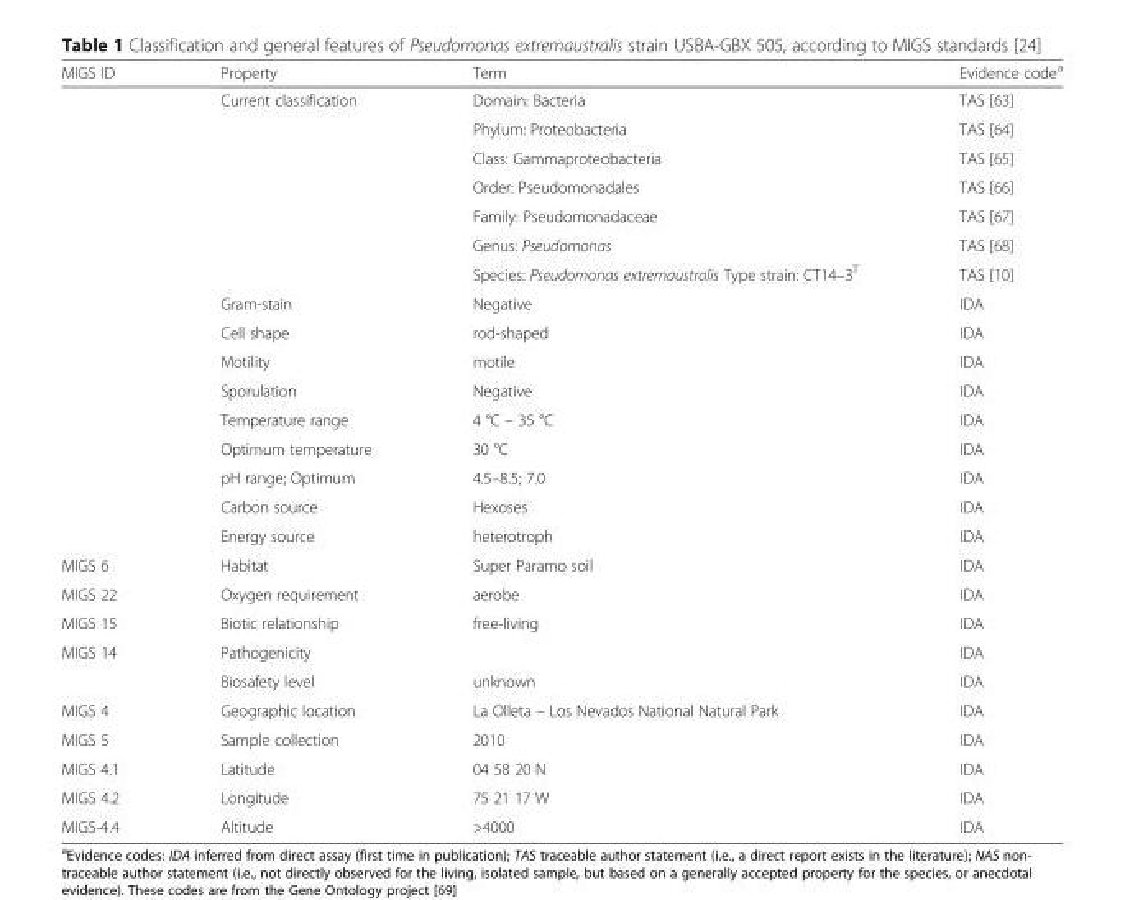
<table><thead><tr><td>MIGS ID</td><td>Property</td><td>Term</td><td>Evidence code<sup>a</sup></td></tr></thead><tbody><tr><td></td><td>Current classification</td><td>Domain: Bacteria</td><td>TAS [63]</td></tr><tr><td></td><td></td><td>Phylum: Proteobacteria</td><td>TAS [64]</td></tr><tr><td></td><td></td><td>Class: Gammaproteobacteria</td><td>TAS [65]</td></tr><tr><td></td><td></td><td>Order: Pseudomonadales</td><td>TAS [66]</td></tr><tr><td></td><td></td><td>Family: Pseudomonadaceae</td><td>TAS [67]</td></tr><tr><td></td><td></td><td>Genus: Pseudomonas</td><td>TAS [68]</td></tr><tr><td></td><td></td><td>Species: Pseudomonas extremaustralis Type strain: CT14–3<sup>T</sup></td><td>TAS [10]</td></tr><tr><td></td><td>Gram-stain</td><td>Negative</td><td>IDA</td></tr><tr><td></td><td>Cell shape</td><td>rod-shaped</td><td>IDA</td></tr><tr><td></td><td>Motility</td><td>motile</td><td>IDA</td></tr><tr><td></td><td>Sporulation</td><td>Negative</td><td>IDA</td></tr><tr><td></td><td>Temperature range</td><td>4 °C – 35 °C</td><td>IDA</td></tr><tr><td></td><td>Optimum temperature</td><td>30 °C</td><td>IDA</td></tr><tr><td></td><td>pH range; Optimum</td><td>4.5–8.5; 7.0</td><td>IDA</td></tr><tr><td></td><td>Carbon source</td><td>Hexoses</td><td>IDA</td></tr><tr><td></td><td>Energy source</td><td>heterotroph</td><td>IDA</td></tr><tr><td>MIGS 6</td><td>Habitat</td><td>Super Paramo soil</td><td>IDA</td></tr><tr><td>MIGS 22</td><td>Oxygen requirement</td><td>aerobe</td><td>IDA</td></tr><tr><td>MIGS 15</td><td>Biotic relationship</td><td>free-living</td><td>IDA</td></tr><tr><td rowspan="2">MIGS 14</td><td>Pathogenicity</td><td></td><td>IDA</td></tr><tr><td>Biosafety level</td><td>unknown</td><td>IDA</td></tr><tr><td>MIGS 4</td><td>Geographic location</td><td>La Olleta – Los Nevados National Natural Park</td><td>IDA</td></tr><tr><td>MIGS 5</td><td>Sample collection</td><td>2010</td><td>IDA</td></tr><tr><td>MIGS 4.1</td><td>Latitude</td><td>04 58 20 N</td><td>IDA</td></tr><tr><td>MIGS 4.2</td><td>Longitude</td><td>75 21 17 W</td><td>IDA</td></tr><tr><td>MIGS-4.4</td><td>Altitude</td><td>&gt;4000</td><td>IDA</td></tr></tbody></table>